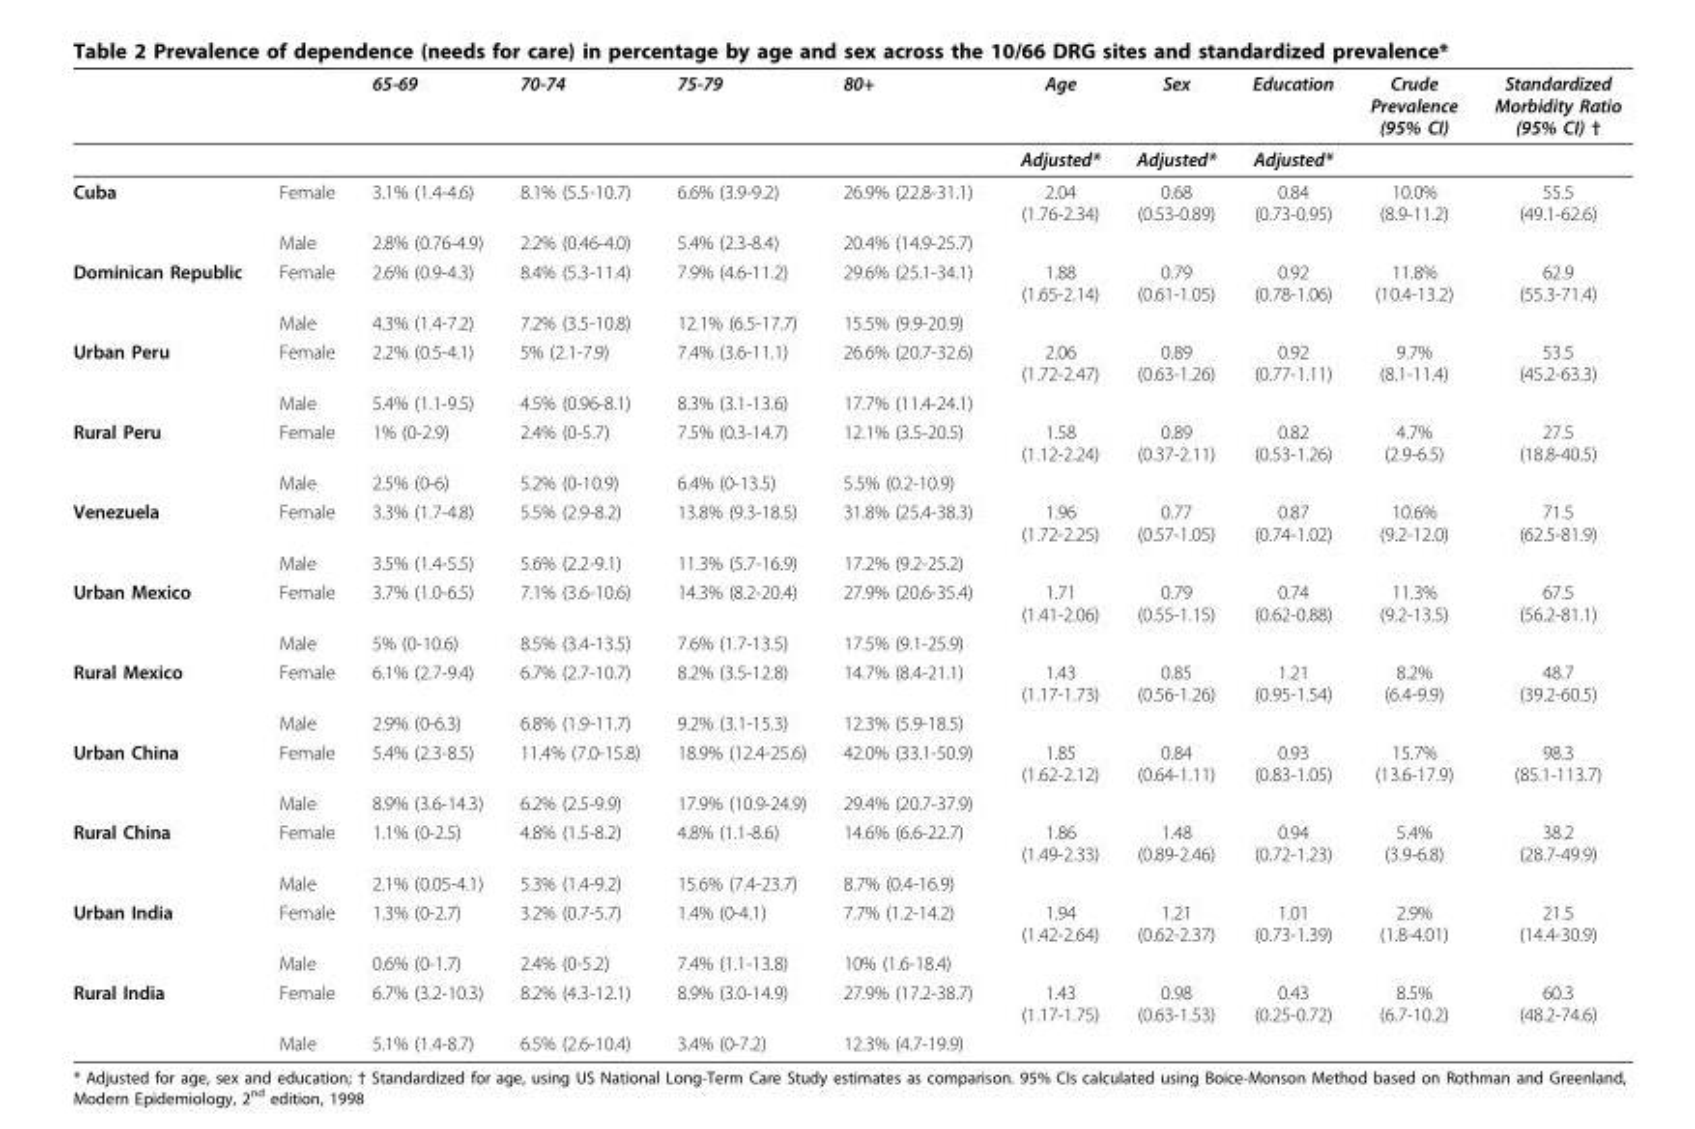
<table><thead><tr><td></td><td></td><td>65-69</td><td>70-74</td><td>75-79</td><td>80+</td><td>Age</td><td>Sex</td><td>Education</td><td>Crude Prevalence (95% CI)</td><td>Standardized Morbidity Ratio (95% CI) †</td></tr></thead><tbody><tr><td></td><td></td><td></td><td></td><td></td><td></td><td>Adjusted*</td><td>Adjusted*</td><td>Adjusted*</td><td></td><td></td></tr><tr><td rowspan="2">Cuba</td><td>Female</td><td>3.1% (1.4-4.6)</td><td>8.1% (5.5-10.7)</td><td>6.6% (3.9-9.2)</td><td>26.9% (22.8-31.1)</td><td>2.04 (1.76-2.34)</td><td>0.68 (0.53-0.89)</td><td>0.84 (0.73-0.95)</td><td>10.0% (8.9-11.2)</td><td>55.5 (49.1-62.6)</td></tr><tr><td>Male</td><td>2.8% (0.76-4.9)</td><td>2.2% (0.46-4.0)</td><td>5.4% (2.3-8.4)</td><td>20.4% (14.9-25.7)</td><td></td><td></td><td></td><td></td><td></td></tr><tr><td rowspan="2">Dominican Republic</td><td>Female</td><td>2.6% (0.9-4.3)</td><td>8.4% (5.3-11.4)</td><td>7.9% (4.6-11.2)</td><td>29.6% (25.1-34.1)</td><td>1.88 (1.65-2.14)</td><td>0.79 (0.61-1.05)</td><td>0.92 (0.78-1.06)</td><td>11.8% (10.4-13.2)</td><td>62.9 (55.3-71.4)</td></tr><tr><td>Male</td><td>4.3% (1.4-7.2)</td><td>7.2% (3.5-10.8)</td><td>12.1% (6.5-17.7)</td><td>15.5% (9.9-20.9)</td><td></td><td></td><td></td><td></td><td></td></tr><tr><td rowspan="2">Urban Peru</td><td>Female</td><td>2.2% (0.5-4.1)</td><td>5% (2.1-7.9)</td><td>7.4% (3.6-11.1)</td><td>26.6% (20.7-32.6)</td><td>2.06 (1.72-2.47)</td><td>0.89 (0.63-1.26)</td><td>0.92 (0.77-1.11)</td><td>9.7% (8.1-11.4)</td><td>53.5 (45.2-63.3)</td></tr><tr><td>Male</td><td>5.4% (1.1-9.5)</td><td>4.5% (0.96-8.1)</td><td>8.3% (3.1-13.6)</td><td>17.7% (11.4-24.1)</td><td></td><td></td><td></td><td></td><td></td></tr><tr><td rowspan="2">Rural Peru</td><td>Female</td><td>1% (0-2.9)</td><td>2.4% (0-5.7)</td><td>7.5% (0.3-14.7)</td><td>12.1% (3.5-20.5)</td><td>1.58 (1.12-2.24)</td><td>0.89 (0.37-2.11)</td><td>0.82 (0.53-1.26)</td><td>4.7% (2.9-6.5)</td><td>27.5 (18.8-40.5)</td></tr><tr><td>Male</td><td>2.5% (0-6)</td><td>5.2% (0-10.9)</td><td>6.4% (0-13.5)</td><td>5.5% (0.2-10.9)</td><td></td><td></td><td></td><td></td><td></td></tr><tr><td rowspan="2">Venezuela</td><td>Female</td><td>3.3% (1.7-4.8)</td><td>5.5% (2.9-8.2)</td><td>13.8% (9.3-18.5)</td><td>31.8% (25.4-38.3)</td><td>1.96 (1.72-2.25)</td><td>0.77 (0.57-1.05)</td><td>0.87 (0.74-1.02)</td><td>10.6% (9.2-12.0)</td><td>71.5 (62.5-81.9)</td></tr><tr><td>Male</td><td>3.5% (1.4-5.5)</td><td>5.6% (2.2-9.1)</td><td>11.3% (5.7-16.9)</td><td>17.2% (9.2-25.2)</td><td></td><td></td><td></td><td></td><td></td></tr><tr><td rowspan="2">Urban Mexico</td><td>Female</td><td>3.7% (1.0-6.5)</td><td>7.1% (3.6-10.6)</td><td>14.3% (8.2-20.4)</td><td>27.9% (20.6-35.4)</td><td>1.71 (1.41-2.06)</td><td>0.79 (0.55-1.15)</td><td>0.74 (0.62-0.88)</td><td>11.3% (9.2-13.5)</td><td>67.5 (56.2-81.1)</td></tr><tr><td>Male</td><td>5% (0-10.6)</td><td>8.5% (3.4-13.5)</td><td>7.6% (1.7-13.5)</td><td>17.5% (9.1-25.9)</td><td></td><td></td><td></td><td></td><td></td></tr><tr><td rowspan="2">Rural Mexico</td><td>Female</td><td>6.1% (2.7-9.4)</td><td>6.7% (2.7-10.7)</td><td>8.2% (3.5-12.8)</td><td>14.7% (8.4-21.1)</td><td>1.43 (1.17-1.73)</td><td>0.85 (0.56-1.26)</td><td>1.21 (0.95-1.54)</td><td>8.2% (6.4-9.9)</td><td>48.7 (39.2-60.5)</td></tr><tr><td>Male</td><td>2.9% (0-6.3)</td><td>6.8% (1.9-11.7)</td><td>9.2% (3.1-15.3)</td><td>12.3% (5.9-18.5)</td><td></td><td></td><td></td><td></td><td></td></tr><tr><td rowspan="2">Urban China</td><td>Female</td><td>5.4% (2.3-8.5)</td><td>11.4% (7.0-15.8)</td><td>18.9% (12.4-25.6)</td><td>42.0% (33.1-50.9)</td><td>1.85 (1.62-2.12)</td><td>0.84 (0.64-1.11)</td><td>0.93 (0.83-1.05)</td><td>15.7% (13.6-17.9)</td><td>98.3 (85.1-113.7)</td></tr><tr><td>Male</td><td>8.9% (3.6-14.3)</td><td>6.2% (2.5-9.9)</td><td>17.9% (10.9-24.9)</td><td>29.4% (20.7-37.9)</td><td></td><td></td><td></td><td></td><td></td></tr><tr><td rowspan="2">Rural China</td><td>Female</td><td>1.1% (0-2.5)</td><td>4.8% (1.5-8.2)</td><td>4.8% (1.1-8.6)</td><td>14.6% (6.6-22.7)</td><td>1.86 (1.49-2.33)</td><td>1.48 (0.89-2.46)</td><td>0.94 (0.72-1.23)</td><td>5.4% (3.9-6.8)</td><td>38.2 (28.7-49.9)</td></tr><tr><td>Male</td><td>2.1% (0.05-4.1)</td><td>5.3% (1.4-9.2)</td><td>15.6% (7.4-23.7)</td><td>8.7% (0.4-16.9)</td><td></td><td></td><td></td><td></td><td></td></tr><tr><td rowspan="2">Urban India</td><td>Female</td><td>1.3% (0-2.7)</td><td>3.2% (0.7-5.7)</td><td>1.4% (0-4.1)</td><td>7.7% (1.2-14.2)</td><td>1.94 (1.42-2.64)</td><td>1.21 (0.62-2.37)</td><td>1.01 (0.73-1.39)</td><td>2.9% (1.8-4.01)</td><td>21.5 (14.4-30.9)</td></tr><tr><td>Male</td><td>0.6% (0-1.7)</td><td>2.4% (0-5.2)</td><td>7.4% (1.1-13.8)</td><td>10% (1.6-18.4)</td><td></td><td></td><td></td><td></td><td></td></tr><tr><td rowspan="2">Rural India</td><td>Female</td><td>6.7% (3.2-10.3)</td><td>8.2% (4.3-12.1)</td><td>8.9% (3.0-14.9)</td><td>27.9% (17.2-38.7)</td><td>1.43 (1.17-1.75)</td><td>0.98 (0.63-1.53)</td><td>0.43 (0.25-0.72)</td><td>8.5% (6.7-10.2)</td><td>60.3 (48.2-74.6)</td></tr><tr><td>Male</td><td>5.1% (1.4-8.7)</td><td>6.5% (2.6-10.4)</td><td>3.4% (0-7.2)</td><td>12.3% (4.7-19.9)</td><td></td><td></td><td></td><td></td><td></td></tr></tbody></table>